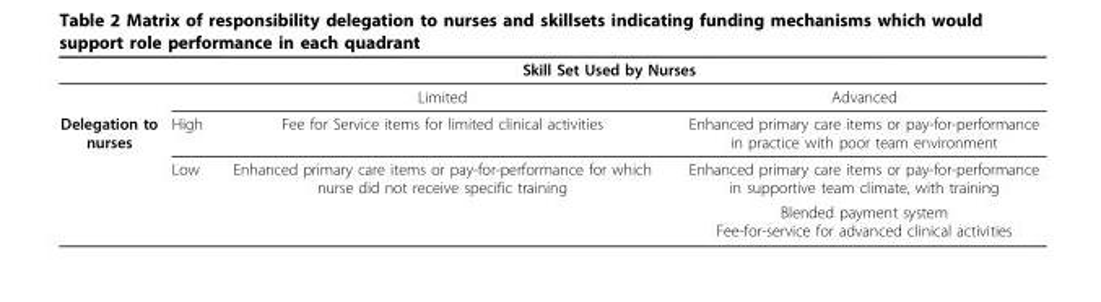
<table><thead><tr><td rowspan="2"></td><td colspan="3">Skill Set Used by Nurses</td></tr><tr><td></td><td>Limited</td><td>Advanced</td></tr></thead><tbody><tr><td rowspan="3">Delegation to nurses</td><td>High</td><td>Fee for Service items for limited clinical activities</td><td>Enhanced primary care items or pay-for-performance in practice with poor team environment</td></tr><tr><td>Low</td><td>Enhanced primary care items or pay-for-performance for which nurse did not receive specific training</td><td>Enhanced primary care items or pay-for-performance in supportive team climate, with training</td></tr><tr><td></td><td></td><td>Blended payment system Fee-for-service for advanced clinical activities</td></tr></tbody></table>